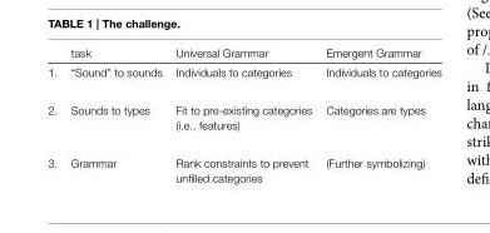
<table><thead><tr><td></td><td>task</td><td>Universal Grammar</td><td>Emergent Grammar</td></tr></thead><tbody><tr><td>1.</td><td>“Sound” to sounds</td><td>Individuals to categories</td><td>Individuals to categories</td></tr><tr><td>2.</td><td>Sounds to types</td><td>Fit to pre-existing categories (i.e., features)</td><td>Categories are types</td></tr><tr><td>3.</td><td>Grammar</td><td>Rank constraints to prevent unfilled categories</td><td>(Further symbolizing)</td></tr></tbody></table>